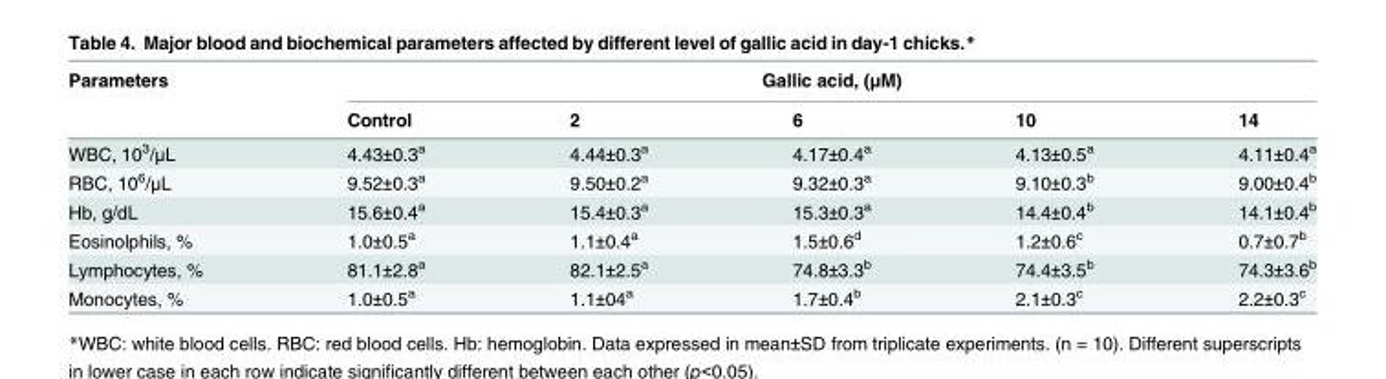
<table><thead><tr><td rowspan="2">Parameters</td><td colspan="5">Gallic acid, (μM)</td></tr><tr><td>Control</td><td>2</td><td>6</td><td>10</td><td>14</td></tr></thead><tbody><tr><td>WBC, 10<sup>3</sup>/μL</td><td>4.43±0.3<sup>a</sup></td><td>4.44±0.3<sup>a</sup></td><td>4.17±0.4<sup>a</sup></td><td>4.13±0.5<sup>a</sup></td><td>4.11±0.4<sup>a</sup></td></tr><tr><td>RBC, 10<sup>6</sup>/μL</td><td>9.52±0.3<sup>a</sup></td><td>9.50±0.2<sup>a</sup></td><td>9.32±0.3<sup>a</sup></td><td>9.10±0.3<sup>b</sup></td><td>9.00±0.4<sup>b</sup></td></tr><tr><td>Hb, g/dL</td><td>15.6±0.4<sup>a</sup></td><td>15.4±0.3<sup>a</sup></td><td>15.3±0.3<sup>a</sup></td><td>14.4±0.4<sup>b</sup></td><td>14.1±0.4<sup>b</sup></td></tr><tr><td>Eosinolphils, %</td><td>1.0±0.5<sup>a</sup></td><td>1.1±0.4<sup>a</sup></td><td>1.5±0.6<sup>d</sup></td><td>1.2±0.6<sup>c</sup></td><td>0.7±0.7<sup>b</sup></td></tr><tr><td>Lymphocytes, %</td><td>81.1±2.8<sup>a</sup></td><td>82.1±2.5<sup>a</sup></td><td>74.8±3.3<sup>b</sup></td><td>74.4±3.5<sup>b</sup></td><td>74.3±3.6<sup>b</sup></td></tr><tr><td>Monocytes, %</td><td>1.0±0.5<sup>a</sup></td><td>1.1±04<sup>a</sup></td><td>1.7±0.4<sup>b</sup></td><td>2.1±0.3<sup>c</sup></td><td>2.2±0.3<sup>c</sup></td></tr></tbody></table>